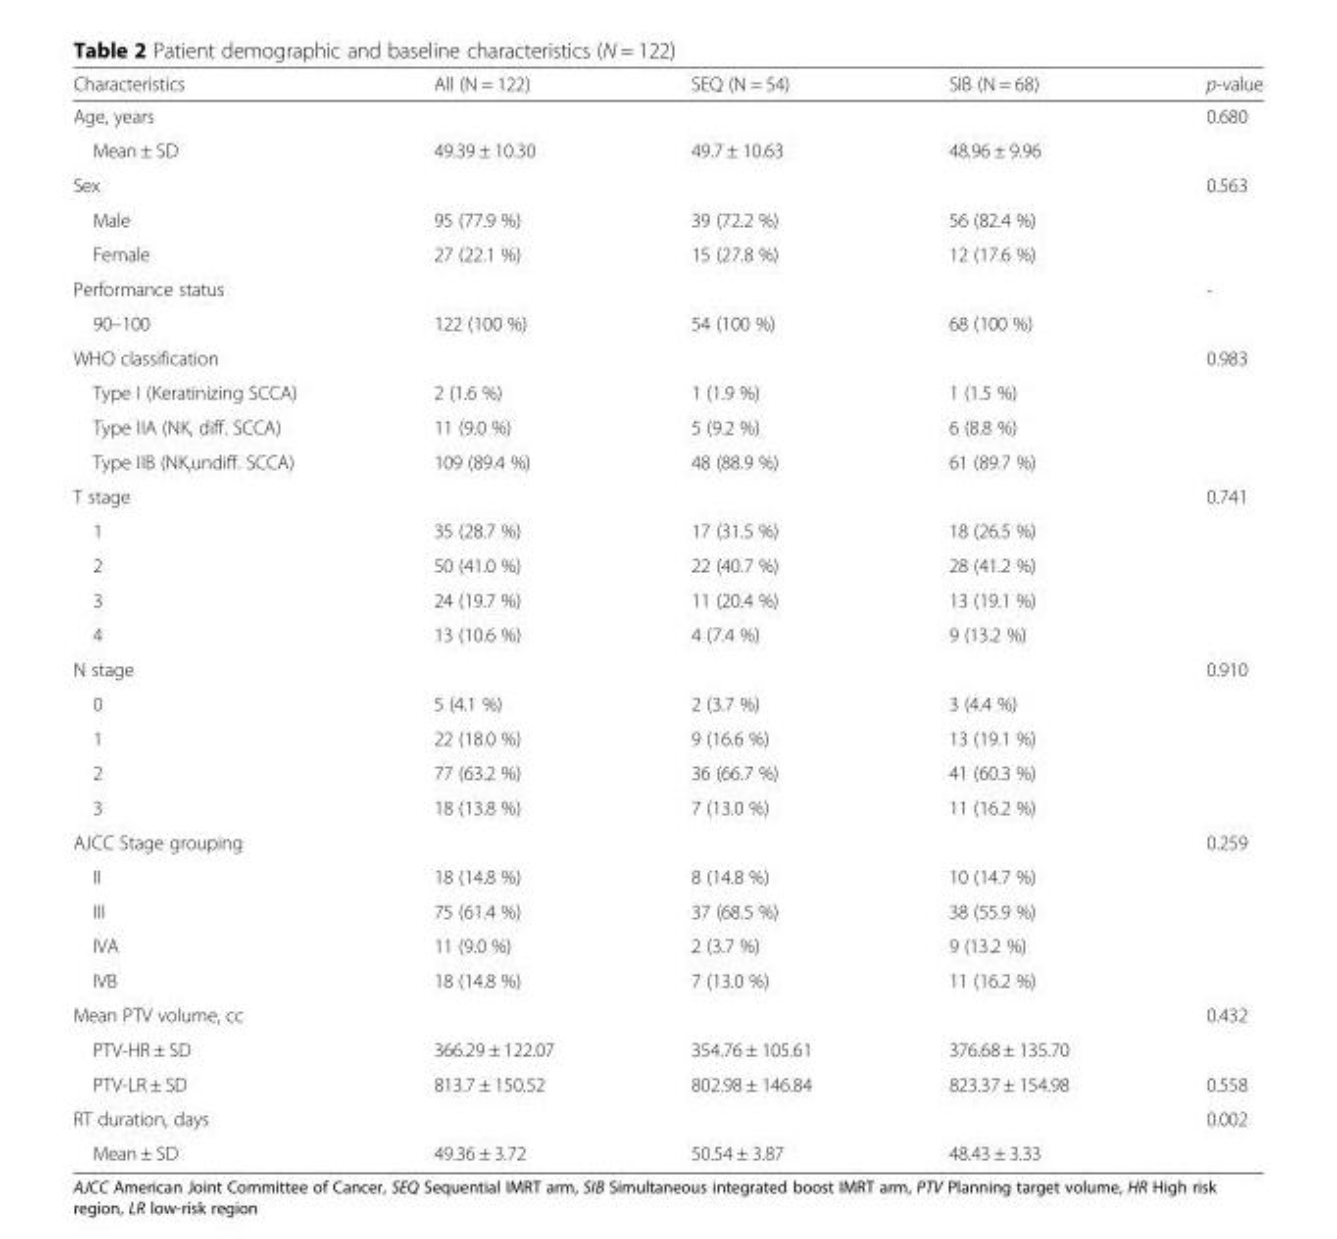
<table><thead><tr><td>Characteristics</td><td>All (N = 122)</td><td>SEQ (N = 54)</td><td>SIB (N = 68)</td><td>p-value</td></tr></thead><tbody><tr><td colspan="4">Age, years</td><td rowspan="2">0.680</td></tr><tr><td>Mean ± SD</td><td>49.39 ± 10.30</td><td>49.7 ± 10.63</td><td>48.96 ± 9.96</td></tr><tr><td colspan="4">Sex</td><td rowspan="3">0.563</td></tr><tr><td>Male</td><td>95 (77.9 %)</td><td>39 (72.2 %)</td><td>56 (82.4 %)</td></tr><tr><td>Female</td><td>27 (22.1 %)</td><td>15 (27.8 %)</td><td>12 (17.6 %)</td></tr><tr><td colspan="4">Performance status</td><td rowspan="2">-</td></tr><tr><td>90–100</td><td>122 (100 %)</td><td>54 (100 %)</td><td>68 (100 %)</td></tr><tr><td colspan="4">WHO classification</td><td rowspan="4">0.983</td></tr><tr><td>Type I (Keratinizing SCCA)</td><td>2 (1.6 %)</td><td>1 (1.9 %)</td><td>1 (1.5 %)</td></tr><tr><td>Type IIA (NK, diff. SCCA)</td><td>11 (9.0 %)</td><td>5 (9.2 %)</td><td>6 (8.8 %)</td></tr><tr><td>Type IIB (NK,undiff. SCCA)</td><td>109 (89.4 %)</td><td>48 (88.9 %)</td><td>61 (89.7 %)</td></tr><tr><td colspan="4">T stage</td><td rowspan="5">0.741</td></tr><tr><td>1</td><td>35 (28.7 %)</td><td>17 (31.5 %)</td><td>18 (26.5 %)</td></tr><tr><td>2</td><td>50 (41.0 %)</td><td>22 (40.7 %)</td><td>28 (41.2 %)</td></tr><tr><td>3</td><td>24 (19.7 %)</td><td>11 (20.4 %)</td><td>13 (19.1 %)</td></tr><tr><td>4</td><td>13 (10.6 %)</td><td>4 (7.4 %)</td><td>9 (13.2 %)</td></tr><tr><td colspan="4">N stage</td><td rowspan="5">0.910</td></tr><tr><td>0</td><td>5 (4.1 %)</td><td>2 (3.7 %)</td><td>3 (4.4 %)</td></tr><tr><td>1</td><td>22 (18.0 %)</td><td>9 (16.6 %)</td><td>13 (19.1 %)</td></tr><tr><td>2</td><td>77 (63.2 %)</td><td>36 (66.7 %)</td><td>41 (60.3 %)</td></tr><tr><td>3</td><td>18 (13.8 %)</td><td>7 (13.0 %)</td><td>11 (16.2 %)</td></tr><tr><td colspan="4">AJCC Stage grouping</td><td rowspan="5">0.259</td></tr><tr><td>II</td><td>18 (14.8 %)</td><td>8 (14.8 %)</td><td>10 (14.7 %)</td></tr><tr><td>III</td><td>75 (61.4 %)</td><td>37 (68.5 %)</td><td>38 (55.9 %)</td></tr><tr><td>IVA</td><td>11 (9.0 %)</td><td>2 (3.7 %)</td><td>9 (13.2 %)</td></tr><tr><td>IVB</td><td>18 (14.8 %)</td><td>7 (13.0 %)</td><td>11 (16.2 %)</td></tr><tr><td colspan="4">Mean PTV volume, cc</td><td rowspan="2">0.432</td></tr><tr><td>PTV-HR ± SD</td><td>366.29 ± 122.07</td><td>354.76 ± 105.61</td><td>376.68 ± 135.70</td></tr><tr><td>PTV-LR ± SD</td><td>813.7 ± 150.52</td><td>802.98 ± 146.84</td><td>823.37 ± 154.98</td><td>0.558</td></tr><tr><td colspan="4">RT duration, days</td><td rowspan="2">0.002</td></tr><tr><td>Mean ± SD</td><td>49.36 ± 3.72</td><td>50.54 ± 3.87</td><td>48.43 ± 3.33</td></tr></tbody></table>